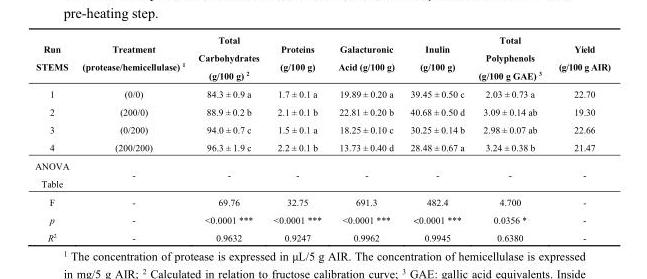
<table><thead><tr><td>Run STEMS</td><td>Treatment (protease/hemicellulase) <sup>1</sup></td><td>Total Carbohydrates (g/100 g) <sup>2</sup></td><td>Proteins (g/100 g)</td><td>Galacturonic Acid (g/100 g)</td><td>Inulin (g/100 g)</td><td>Total Polyphenols (g/100 g GAE) <sup>3</sup></td><td>Yield (g/100 g AIR)</td></tr></thead><tbody><tr><td>1</td><td>(0/0)</td><td>84.3 ± 0.9 a</td><td>1.7 ± 0.1 a</td><td>19.89 ± 0.20 a</td><td>39.45 ± 0.50 c</td><td>2.03 ± 0.73 a</td><td>22.70</td></tr><tr><td>2</td><td>(200/0)</td><td>88.9 ± 0.2 b</td><td>2.1 ± 0.1 b</td><td>22.81 ± 0.20 b</td><td>40.68 ± 0.50 d</td><td>3.09 ± 0.14 ab</td><td>19.30</td></tr><tr><td>3</td><td>(0/200)</td><td>94.0 ± 0.7 c</td><td>1.5 ± 0.1 a</td><td>18.25 ± 0.10 c</td><td>30.25 ± 0.14 b</td><td>2.98 ± 0.07 ab</td><td>22.66</td></tr><tr><td>4</td><td>(200/200)</td><td>96.3 ± 1.9 c</td><td>2.2 ± 0.1 b</td><td>13.73 ± 0.40 d</td><td>28.48 ± 0.67 a</td><td>3.24 ± 0.38 b</td><td>21.47</td></tr><tr><td>ANOVA Table</td><td>-</td><td>-</td><td>-</td><td>-</td><td>-</td><td>-</td><td>-</td></tr><tr><td>F</td><td>-</td><td>69.76</td><td>32.75</td><td>691.3</td><td>482.4</td><td>4.700</td><td>-</td></tr><tr><td>p</td><td>-</td><td>&lt;0.0001 ***</td><td>&lt;0.0001 ***</td><td>&lt;0.0001 ***</td><td>&lt;0.0001 ***</td><td>0.0356 *</td><td>-</td></tr><tr><td>R<sup>2</sup></td><td>-</td><td>0.9632</td><td>0.9247</td><td>0.9962</td><td>0.9945</td><td>0.6380</td><td>-</td></tr></tbody></table>